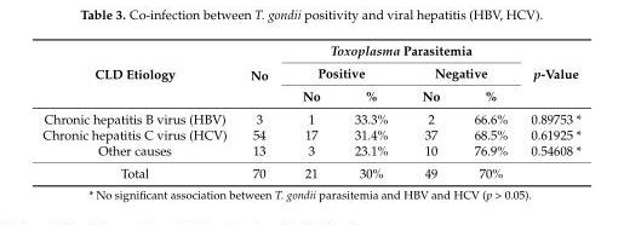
<table><thead><tr><td rowspan="3">CLD Etiology</td><td rowspan="3">No</td><td colspan="4">Toxoplasma Parasitemia</td><td rowspan="3">p-Value</td></tr><tr><td colspan="2">Positive</td><td colspan="2">Negative</td></tr><tr><td>No</td><td>%</td><td>No</td><td>%</td></tr></thead><tbody><tr><td>Chronic hepatitis B virus (HBV)</td><td>3</td><td>1</td><td>33.3%</td><td>2</td><td>66.6%</td><td>0.89753 *</td></tr><tr><td>Chronic hepatitis C virus (HCV)</td><td>54</td><td>17</td><td>31.4%</td><td>37</td><td>68.5%</td><td>0.61925 *</td></tr><tr><td>Other causes</td><td>13</td><td>3</td><td>23.1%</td><td>10</td><td>76.9%</td><td>0.54608 *</td></tr><tr><td>Total</td><td>70</td><td>21</td><td>30%</td><td>49</td><td>70%</td><td></td></tr></tbody></table>